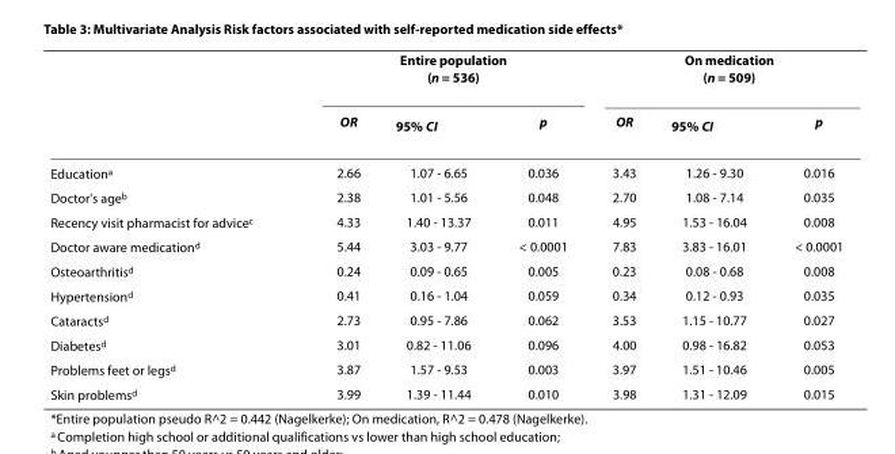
<table><thead><tr><td rowspan="2"></td><td colspan="3">Entire population (n = 536)</td><td colspan="3">On medication (n = 509)</td></tr><tr><td>OR</td><td>95% CI</td><td>p</td><td>OR</td><td>95% CI</td><td>p</td></tr></thead><tbody><tr><td>Education<sup>a</sup></td><td>2.66</td><td>1.07 - 6.65</td><td>0.036</td><td>3.43</td><td>1.26 - 9.30</td><td>0.016</td></tr><tr><td>Doctor&#x27;s age<sup>b</sup></td><td>2.38</td><td>1.01 - 5.56</td><td>0.048</td><td>2.70</td><td>1.08 - 7.14</td><td>0.035</td></tr><tr><td>Recency visit pharmacist for advice<sup>c</sup></td><td>4.33</td><td>1.40 - 13.37</td><td>0.011</td><td>4.95</td><td>1.53 - 16.04</td><td>0.008</td></tr><tr><td>Doctor aware medication<sup>d</sup></td><td>5.44</td><td>3.03 - 9.77</td><td>&lt; 0.0001</td><td>7.83</td><td>3.83 - 16.01</td><td>&lt; 0.0001</td></tr><tr><td>Osteoarthritis<sup>d</sup></td><td>0.24</td><td>0.09 - 0.65</td><td>0.005</td><td>0.23</td><td>0.08 - 0.68</td><td>0.008</td></tr><tr><td>Hypertension<sup>d</sup></td><td>0.41</td><td>0.16 - 1.04</td><td>0.059</td><td>0.34</td><td>0.12 - 0.93</td><td>0.035</td></tr><tr><td>Cataracts<sup>d</sup></td><td>2.73</td><td>0.95 - 7.86</td><td>0.062</td><td>3.53</td><td>1.15 - 10.77</td><td>0.027</td></tr><tr><td>Diabetes<sup>d</sup></td><td>3.01</td><td>0.82 - 11.06</td><td>0.096</td><td>4.00</td><td>0.98 - 16.82</td><td>0.053</td></tr><tr><td>Problems feet or legs<sup>d</sup></td><td>3.87</td><td>1.57 - 9.53</td><td>0.003</td><td>3.97</td><td>1.51 - 10.46</td><td>0.005</td></tr><tr><td>Skin problems<sup>d</sup></td><td>3.99</td><td>1.39 - 11.44</td><td>0.010</td><td>3.98</td><td>1.31 - 12.09</td><td>0.015</td></tr></tbody></table>